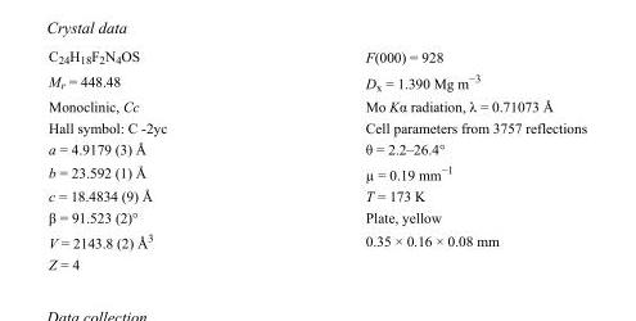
<table><tbody><tr><td>C<sub>24</sub>H<sub>18</sub>F<sub>2</sub>N<sub>4</sub>OS</td><td>F(000) = 928</td></tr><tr><td>M<sub>r</sub> = 448.48</td><td>D<sub>x</sub> = 1.390 Mg m<sup>−3</sup></td></tr><tr><td>Monoclinic, Cc</td><td>Mo Kα radiation, λ = 0.71073 Å</td></tr><tr><td>Hall symbol: C -2yc</td><td>Cell parameters from 3757 reflections</td></tr><tr><td>a = 4.9179 (3) Å</td><td>θ = 2.2–26.4°</td></tr><tr><td>b = 23.592 (1) Å</td><td>µ = 0.19 mm<sup>−1</sup></td></tr><tr><td>c = 18.4834 (9) Å</td><td>T = 173 K</td></tr><tr><td>β = 91.523 (2)°</td><td>Plate, yellow</td></tr><tr><td>V = 2143.8 (2) Å<sup>3</sup></td><td>0.35 × 0.16 × 0.08 mm</td></tr><tr><td>Z = 4</td><td></td></tr></tbody></table>